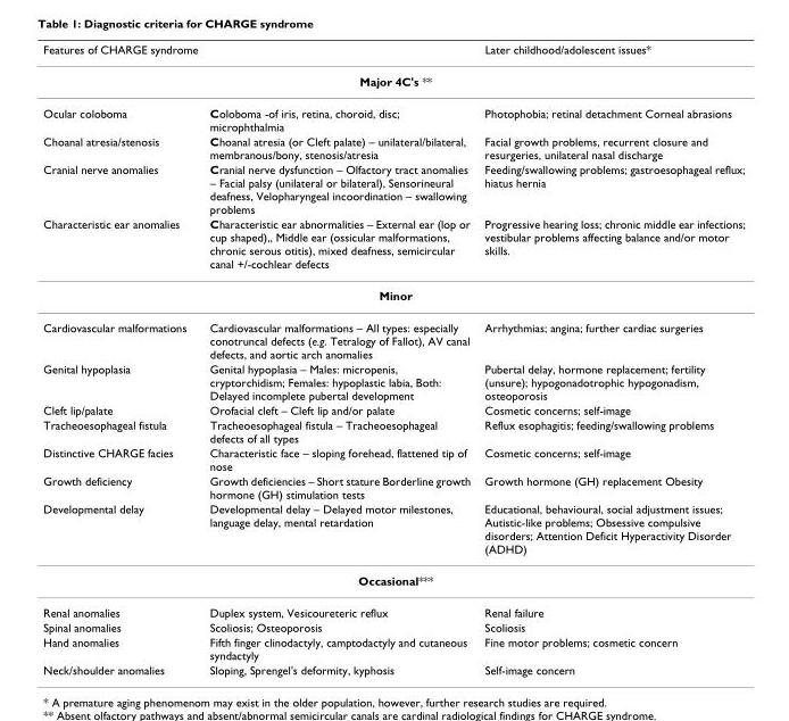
<table><thead><tr><td>Features of CHARGE syndrome</td><td></td><td>Later childhood/adolescent issues*</td></tr></thead><tbody><tr><td colspan="3">Major 4C&#x27;s **</td></tr><tr><td>Ocular coloboma</td><td>Coloboma -of iris, retina, choroid, disc; microphthalmia</td><td>Photophobia; retinal detachment Corneal abrasions</td></tr><tr><td>Choanal atresia/stenosis</td><td>Choanal atresia (or Cleft palate) – unilateral/bilateral, membranous/bony, stenosis/atresia</td><td>Facial growth problems, recurrent closure and resurgeries, unilateral nasal discharge</td></tr><tr><td>Cranial nerve anomalies</td><td>Cranial nerve dysfunction – Olfactory tract anomalies – Facial palsy (unilateral or bilateral), Sensorineural deafness, Velopharyngeal incoordination – swallowing problems</td><td>Feeding/swallowing problems; gastroesophageal reflux; hiatus hernia</td></tr><tr><td>Characteristic ear anomalies</td><td>Characteristic ear abnormalities – External ear (lop or cup shaped),, Middle ear (ossicular malformations, chronic serous otitis), mixed deafness, semicircular canal +/-cochlear defects</td><td>Progressive hearing loss; chronic middle ear infections; vestibular problems affecting balance and/or motor skills.</td></tr><tr><td colspan="3">Minor</td></tr><tr><td>Cardiovascular malformations</td><td>Cardiovascular malformations – All types: especially conotruncal defects (e.g. Tetralogy of Fallot), AV canal defects, and aortic arch anomalies</td><td>Arrhythmias; angina; further cardiac surgeries</td></tr><tr><td>Genital hypoplasia</td><td>Genital hypoplasia – Males: micropenis, cryptorchidism; Females: hypoplastic labia, Both: Delayed incomplete pubertal development</td><td>Pubertal delay, hormone replacement; fertility (unsure); hypogonadotrophic hypogonadism, osteoporosis</td></tr><tr><td>Cleft lip/palate</td><td>Orofacial cleft – Cleft lip and/or palate</td><td>Cosmetic concerns; self-image</td></tr><tr><td>Tracheoesophageal fistula</td><td>Tracheoesophageal fistula – Tracheoesophageal defects of all types</td><td>Reflux esophagitis; feeding/swallowing problems</td></tr><tr><td>Distinctive CHARGE facies</td><td>Characteristic face – sloping forehead, flattened tip of nose</td><td>Cosmetic concerns; self-image</td></tr><tr><td>Growth deficiency</td><td>Growth deficiencies – Short stature Borderline growth hormone (GH) stimulation tests</td><td>Growth hormone (GH) replacement Obesity</td></tr><tr><td>Developmental delay</td><td>Developmental delay – Delayed motor milestones, language delay, mental retardation</td><td>Educational, behavioural, social adjustment issues; Autistic-like problems; Obsessive compulsive disorders; Attention Deficit Hyperactivity Disorder (ADHD)</td></tr><tr><td colspan="3">Occasional***</td></tr><tr><td>Renal anomalies</td><td>Duplex system, Vesicoureteric reflux</td><td>Renal failure</td></tr><tr><td>Spinal anomalies</td><td>Scoliosis; Osteoporosis</td><td>Scoliosis</td></tr><tr><td>Hand anomalies</td><td>Fifth finger clinodactyly, camptodactyly and cutaneous syndactyly</td><td>Fine motor problems; cosmetic concern</td></tr><tr><td>Neck/shoulder anomalies</td><td>Sloping, Sprengel&#x27;s deformity, kyphosis</td><td>Self-image concern</td></tr></tbody></table>